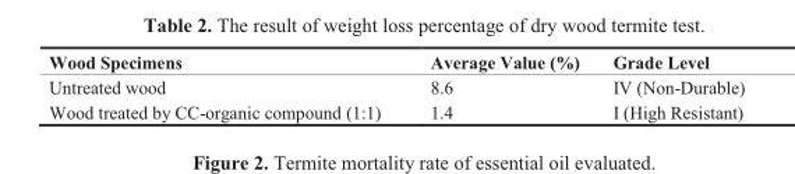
<table><thead><tr><td>Wood Specimens</td><td>Average Value (%)</td><td>Grade Level</td></tr></thead><tbody><tr><td>Untreated wood</td><td>8.6</td><td>IV (Non-Durable)</td></tr><tr><td>Wood treated by CC-organic compound (1:1)</td><td>1.4</td><td>I (High Resistant)</td></tr></tbody></table>